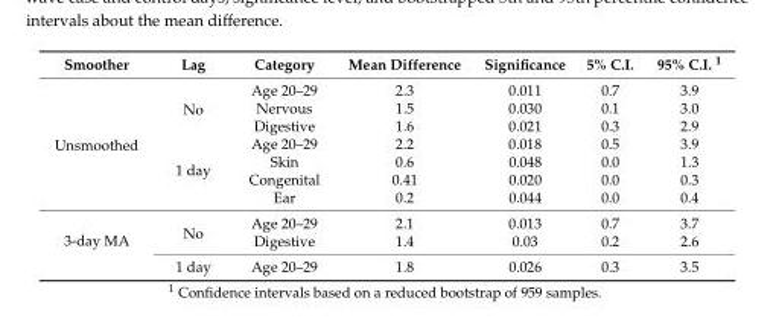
<table><thead><tr><td>Smoother</td><td>Lag</td><td>Category</td><td>Mean Difference</td><td>Significance</td><td>5% C.I.</td><td>95% C.I. <sup>1</sup></td></tr></thead><tbody><tr><td rowspan="7">Unsmoothed</td><td rowspan="3">No</td><td>Age 20–29</td><td>2.3</td><td>0.011</td><td>0.7</td><td>3.9</td></tr><tr><td>Nervous</td><td>1.5</td><td>0.030</td><td>0.1</td><td>3.0</td></tr><tr><td>Digestive</td><td>1.6</td><td>0.021</td><td>0.3</td><td>2.9</td></tr><tr><td rowspan="4">1 day</td><td>Age 20–29</td><td>2.2</td><td>0.018</td><td>0.5</td><td>3.9</td></tr><tr><td>Skin</td><td>0.6</td><td>0.048</td><td>0.0</td><td>1.3</td></tr><tr><td>Congenital</td><td>0.41</td><td>0.020</td><td>0.0</td><td>0.3</td></tr><tr><td>Ear</td><td>0.2</td><td>0.044</td><td>0.0</td><td>0.4</td></tr><tr><td rowspan="3">3-day MA</td><td rowspan="2">No</td><td>Age 20–29</td><td>2.1</td><td>0.013</td><td>0.7</td><td>3.7</td></tr><tr><td>Digestive</td><td>1.4</td><td>0.03</td><td>0.2</td><td>2.6</td></tr><tr><td>1 day</td><td>Age 20–29</td><td>1.8</td><td>0.026</td><td>0.3</td><td>3.5</td></tr></tbody></table>